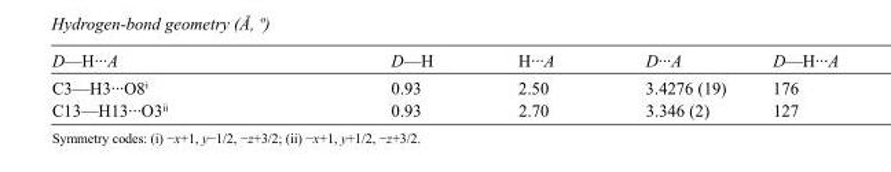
<table><tbody><tr><td>D—H···A</td><td>D—H</td><td>H···A</td><td>D···A</td><td>D—H···A</td></tr><tr><td>C3—H3···O8<sup>i</sup></td><td>0.93</td><td>2.50</td><td>3.4276 (19)</td><td>176</td></tr><tr><td>C13—H13···O3<sup>ii</sup></td><td>0.93</td><td>2.70</td><td>3.346 (2)</td><td>127</td></tr></tbody></table>